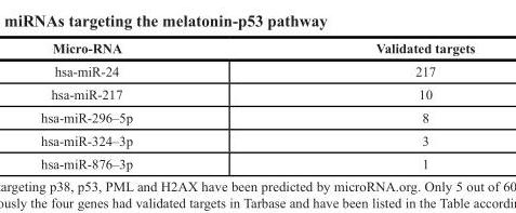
<table><thead><tr><td>Micro-RNA</td><td>Validated targets</td></tr></thead><tbody><tr><td>hsa-miR-24</td><td>217</td></tr><tr><td>hsa-miR-217</td><td>10</td></tr><tr><td>hsa-miR-296–5p</td><td>8</td></tr><tr><td>hsa-miR-324–3p</td><td>3</td></tr><tr><td>hsa-miR-876–3p</td><td>1</td></tr></tbody></table>